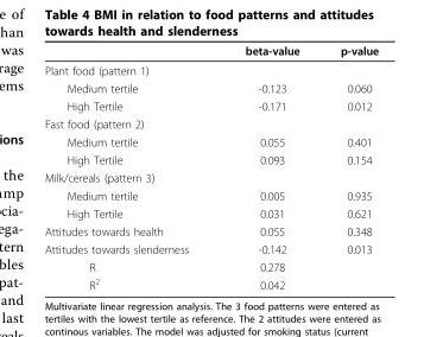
<table><thead><tr><td></td><td>beta-value</td><td>p-value</td></tr></thead><tbody><tr><td colspan="3">Plant food (pattern 1)</td></tr><tr><td>Medium tertile</td><td>-0.123</td><td>0.060</td></tr><tr><td>High Tertile</td><td>-0.171</td><td>0.012</td></tr><tr><td colspan="3">Fast food (pattern 2)</td></tr><tr><td>Medium tertile</td><td>0.055</td><td>0.401</td></tr><tr><td>High Tertile</td><td>0.093</td><td>0.154</td></tr><tr><td colspan="3">Milk/cereals (pattern 3)</td></tr><tr><td>Medium tertile</td><td>0.005</td><td>0.935</td></tr><tr><td>High Tertile</td><td>0.031</td><td>0.621</td></tr><tr><td>Attitudes towards health</td><td>0.055</td><td>0.348</td></tr><tr><td>Attitudes towards slenderness</td><td>-0.142</td><td>0.013</td></tr><tr><td>R</td><td>0.278</td><td></td></tr><tr><td>R<sup>2</sup></td><td>0.042</td><td></td></tr></tbody></table>